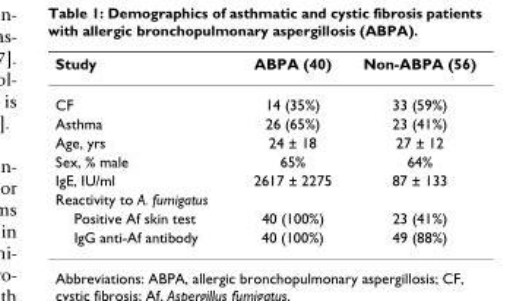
<table><thead><tr><td>Study</td><td>ABPA (40)</td><td>Non-ABPA (56)</td></tr></thead><tbody><tr><td>CF</td><td>14 (35%)</td><td>33 (59%)</td></tr><tr><td>Asthma</td><td>26 (65%)</td><td>23 (41%)</td></tr><tr><td>Age, yrs</td><td>24 ± 18</td><td>27 ± 12</td></tr><tr><td>Sex, % male</td><td>65%</td><td>64%</td></tr><tr><td>IgE, IU/ml</td><td>2617 ± 2275</td><td>87 ± 133</td></tr><tr><td colspan="3">Reactivity to A. fumigatus</td></tr><tr><td>Positive Af skin test</td><td>40 (100%)</td><td>23 (41%)</td></tr><tr><td>IgG anti-Af antibody</td><td>40 (100%)</td><td>49 (88%)</td></tr></tbody></table>